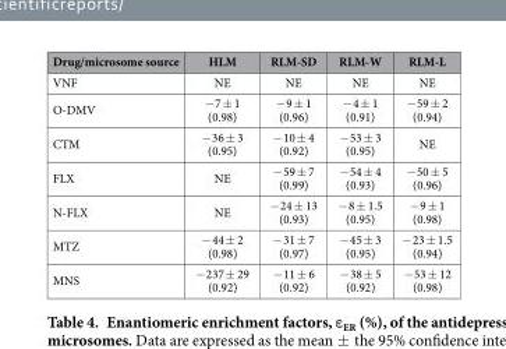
<table><thead><tr><td>Drug/microsome source</td><td>HLM</td><td>RLM-SD</td><td>RLM-W</td><td>RLM-L</td></tr></thead><tbody><tr><td>VNF</td><td>NE</td><td>NE</td><td>NE</td><td>NE</td></tr><tr><td>O-DMV</td><td>− 7 ± 1 (0.98)</td><td>− 9 ± 1 (0.96)</td><td>− 4 ± 1 (0.91)</td><td>− 59 ± 2 (0.94)</td></tr><tr><td>CTM</td><td>− 36 ± 3 (0.95)</td><td>− 10 ± 4 (0.92)</td><td>− 53 ± 3 (0.95)</td><td>NE</td></tr><tr><td>FLX</td><td>NE</td><td>− 59 ± 7 (0.99)</td><td>− 54 ± 4 (0.93)</td><td>− 50 ± 5 (0.96)</td></tr><tr><td>N-FLX</td><td>NE</td><td>− 24 ± 13 (0.93)</td><td>− 8 ± 1.5 (0.95)</td><td>− 9 ± 1 (0.98)</td></tr><tr><td>MTZ</td><td>− 44 ± 2 (0.98)</td><td>− 31 ± 7 (0.97)</td><td>− 45 ± 3 (0.95)</td><td>− 23 ± 1.5 (0.94)</td></tr><tr><td>MNS</td><td>− 237 ± 29 (0.92)</td><td>− 11 ± 6 (0.92)</td><td>− 38 ± 5 (0.92)</td><td>− 53 ± 12 (0.98)</td></tr></tbody></table>